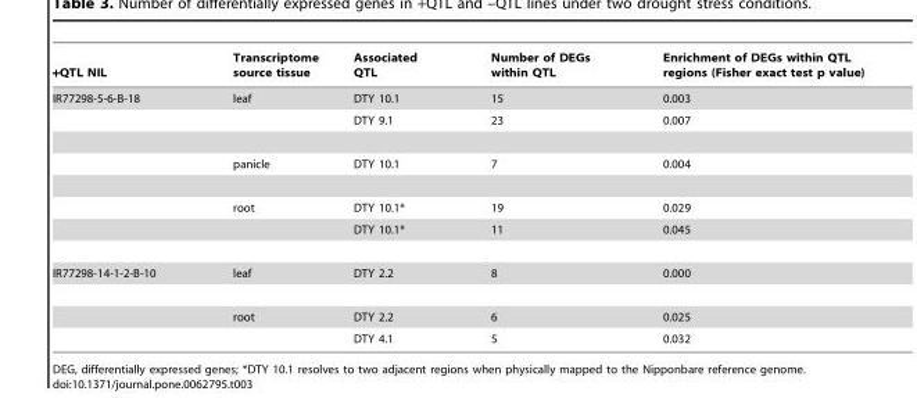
<table><thead><tr><td>+QTL NIL</td><td>Transcriptome source tissue</td><td>Associated QTL</td><td>Number of DEGs within QTL</td><td>Enrichment of DEGs within QTL regions (Fisher exact test p value)</td></tr></thead><tbody><tr><td rowspan="5">IR77298-5-6-B-18</td><td>leaf</td><td>DTY 10.1</td><td>15</td><td>0.003</td></tr><tr><td></td><td>DTY 9.1</td><td>23</td><td>0.007</td></tr><tr><td>panicle</td><td>DTY 10.1</td><td>7</td><td>0.004</td></tr><tr><td>root</td><td>DTY 10.1*</td><td>19</td><td>0.029</td></tr><tr><td></td><td>DTY 10.1*</td><td>11</td><td>0.045</td></tr><tr><td rowspan="3">IR77298-14-1-2-B-10</td><td>leaf</td><td>DTY 2.2</td><td>8</td><td>0.000</td></tr><tr><td>root</td><td>DTY 2.2</td><td>6</td><td>0.025</td></tr><tr><td></td><td>DTY 4.1</td><td>5</td><td>0.032</td></tr></tbody></table>